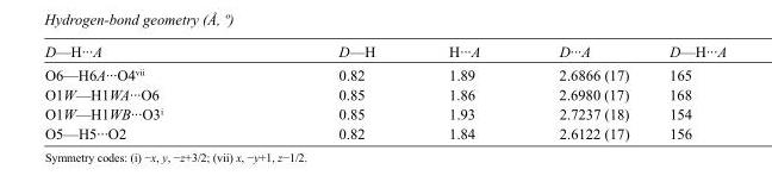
<table><tbody><tr><td>D—H···A</td><td>D—H</td><td>H···A</td><td>D···A</td><td>D—H···A</td></tr><tr><td>O6—H6A···O4<sup>vii</sup></td><td>0.82</td><td>1.89</td><td>2.6866 (17)</td><td>165</td></tr><tr><td>O1W—H1WA···O6</td><td>0.85</td><td>1.86</td><td>2.6980 (17)</td><td>168</td></tr><tr><td>O1W—H1WB···O3<sup>i</sup></td><td>0.85</td><td>1.93</td><td>2.7237 (18)</td><td>154</td></tr><tr><td>O5—H5···O2</td><td>0.82</td><td>1.84</td><td>2.6122 (17)</td><td>156</td></tr></tbody></table>